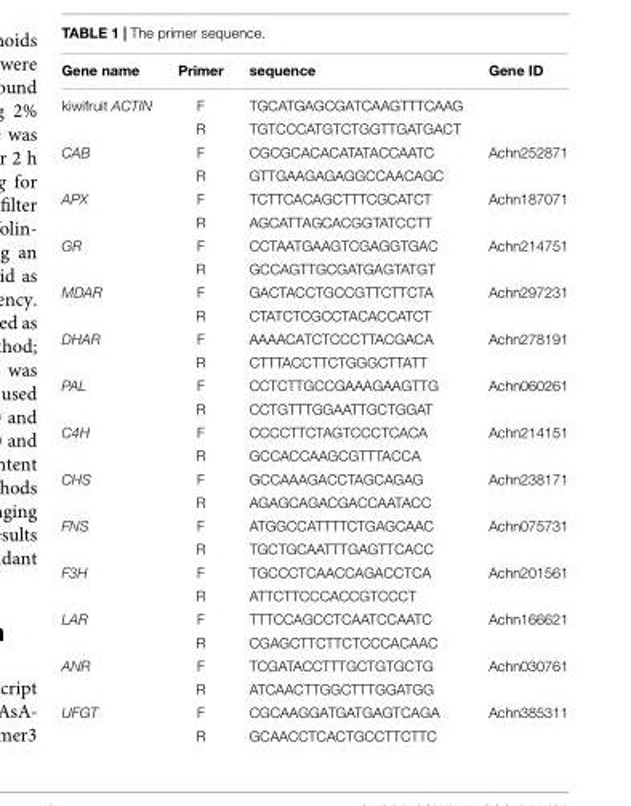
<table><thead><tr><td>Gene name</td><td>Primer</td><td>sequence</td><td>Gene ID</td></tr></thead><tbody><tr><td rowspan="2">kiwifruit ACTIN</td><td>F</td><td>TGCATGAGCGATCAAGTTTCAAG</td><td></td></tr><tr><td>R</td><td>TGTCCCATGTCTGGTTGATGACT</td><td></td></tr><tr><td rowspan="2">CAB</td><td>F</td><td>CGCGCACACATATACCAATC</td><td>Achn252871</td></tr><tr><td>R</td><td>GTTGAAGAGAGGCCAACAGC</td><td></td></tr><tr><td rowspan="2">APX</td><td>F</td><td>TCTTCACAGCTTTCGCATCT</td><td>Achn187071</td></tr><tr><td>R</td><td>AGCATTAGCACGGTATCCTT</td><td></td></tr><tr><td rowspan="2">GR</td><td>F</td><td>CCTAATGAAGTCGAGGTGAC</td><td>Achn214751</td></tr><tr><td>R</td><td>GCCAGTTGCGATGAGTATGT</td><td></td></tr><tr><td rowspan="2">MDAR</td><td>F</td><td>GACTACCTGCCGTTCTTCTA</td><td>Achn297231</td></tr><tr><td>R</td><td>CTATCTCGCCTACACCATCT</td><td></td></tr><tr><td rowspan="2">DHAR</td><td>F</td><td>AAAACATCTCCCTTACGACA</td><td>Achn278191</td></tr><tr><td>R</td><td>CTTTACCTTCTGGGCTTATT</td><td></td></tr><tr><td rowspan="2">PAL</td><td>F</td><td>CCTCTTGCCGAAAGAAGTTG</td><td>Achn060261</td></tr><tr><td>R</td><td>CCTGTTTGGAATTGCTGGAT</td><td></td></tr><tr><td rowspan="2">C4H</td><td>F</td><td>CCCCTTCTAGTCCCTCACA</td><td>Achn214151</td></tr><tr><td>R</td><td>GCCACCAAGCGTTTACCA</td><td></td></tr><tr><td rowspan="2">CHS</td><td>F</td><td>GCCAAAGACCTAGCAGAG</td><td>Achn238171</td></tr><tr><td>R</td><td>AGAGCAGACGACCAATACC</td><td></td></tr><tr><td rowspan="2">FNS</td><td>F</td><td>ATGGCCATTTTCTGAGCAAC</td><td>Achn075731</td></tr><tr><td>R</td><td>TGCTGCAATTTGAGTTCACC</td><td></td></tr><tr><td rowspan="2">F3H</td><td>F</td><td>TGCCCTCAACCAGACCTCA</td><td>Achn201561</td></tr><tr><td>R</td><td>ATTCTTCCCACCGTCCCT</td><td></td></tr><tr><td rowspan="2">LAR</td><td>F</td><td>TTTCCAGCCTCAATCCAATC</td><td>Achn166621</td></tr><tr><td>R</td><td>CGAGCTTCTTCTCCCACAAC</td><td></td></tr><tr><td rowspan="2">ANR</td><td>F</td><td>TCGATACCTTTGCTGTGCTG</td><td>Achn030761</td></tr><tr><td>R</td><td>ATCAACTTGGCTTTGGATGG</td><td></td></tr><tr><td rowspan="2">UFGT</td><td>F</td><td>CGCAAGGATGATGAGTCAGA</td><td>Achn385311</td></tr><tr><td>R</td><td>GCAACCTCACTGCCTTCTTC</td><td></td></tr></tbody></table>